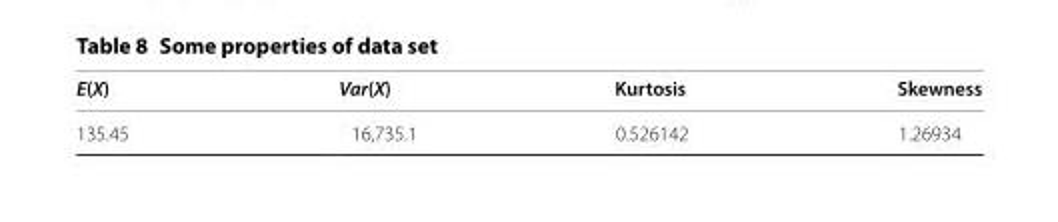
<table><thead><tr><td>E(X)</td><td>Var(X)</td><td>Kurtosis</td><td>Skewness</td></tr></thead><tbody><tr><td>135.45</td><td>16,735.1</td><td>0.526142</td><td>1.26934</td></tr></tbody></table>